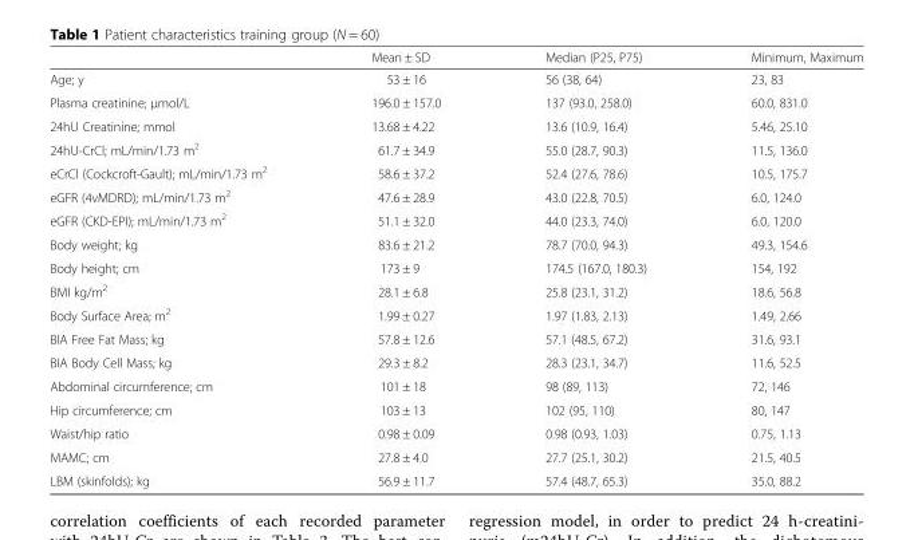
<table><thead><tr><td></td><td>Mean ± SD</td><td>Median (P25, P75)</td><td>Minimum, Maximum</td></tr></thead><tbody><tr><td>Age; y</td><td>53 ± 16</td><td>56 (38, 64)</td><td>23, 83</td></tr><tr><td>Plasma creatinine; μmol/L</td><td>196.0 ± 157.0</td><td>137 (93.0, 258.0)</td><td>60.0, 831.0</td></tr><tr><td>24hU Creatinine; mmol</td><td>13.68 ± 4.22</td><td>13.6 (10.9, 16.4)</td><td>5.46, 25.10</td></tr><tr><td>24hU-CrCl; mL/min/1.73 m<sup>2</sup></td><td>61.7 ± 34.9</td><td>55.0 (28.7, 90.3)</td><td>11.5, 136.0</td></tr><tr><td>eCrCl (Cockcroft-Gault); mL/min/1.73 m<sup>2</sup></td><td>58.6 ± 37.2</td><td>52.4 (27.6, 78.6)</td><td>10.5, 175.7</td></tr><tr><td>eGFR (4vMDRD); mL/min/1.73 m<sup>2</sup></td><td>47.6 ± 28.9</td><td>43.0 (22.8, 70.5)</td><td>6.0, 124.0</td></tr><tr><td>eGFR (CKD-EPI); mL/min/1.73 m<sup>2</sup></td><td>51.1 ± 32.0</td><td>44.0 (23.3, 74.0)</td><td>6.0, 120.0</td></tr><tr><td>Body weight; kg</td><td>83.6 ± 21.2</td><td>78.7 (70.0, 94.3)</td><td>49.3, 154.6</td></tr><tr><td>Body height; cm</td><td>173 ± 9</td><td>174.5 (167.0, 180.3)</td><td>154, 192</td></tr><tr><td>BMI kg/m<sup>2</sup></td><td>28.1 ± 6.8</td><td>25.8 (23.1, 31.2)</td><td>18.6, 56.8</td></tr><tr><td>Body Surface Area; m<sup>2</sup></td><td>1.99 ± 0.27</td><td>1.97 (1.83, 2.13)</td><td>1.49, 2.66</td></tr><tr><td>BIA Free Fat Mass; kg</td><td>57.8 ± 12.6</td><td>57.1 (48.5, 67.2)</td><td>31.6, 93.1</td></tr><tr><td>BIA Body Cell Mass; kg</td><td>29.3 ± 8.2</td><td>28.3 (23.1, 34.7)</td><td>11.6, 52.5</td></tr><tr><td>Abdominal circumference; cm</td><td>101 ± 18</td><td>98 (89, 113)</td><td>72, 146</td></tr><tr><td>Hip circumference; cm</td><td>103 ± 13</td><td>102 (95, 110)</td><td>80, 147</td></tr><tr><td>Waist/hip ratio</td><td>0.98 ± 0.09</td><td>0.98 (0.93, 1.03)</td><td>0.75, 1.13</td></tr><tr><td>MAMC; cm</td><td>27.8 ± 4.0</td><td>27.7 (25.1, 30.2)</td><td>21.5, 40.5</td></tr><tr><td>LBM (skinfolds); kg</td><td>56.9 ± 11.7</td><td>57.4 (48.7, 65.3)</td><td>35.0, 88.2</td></tr></tbody></table>